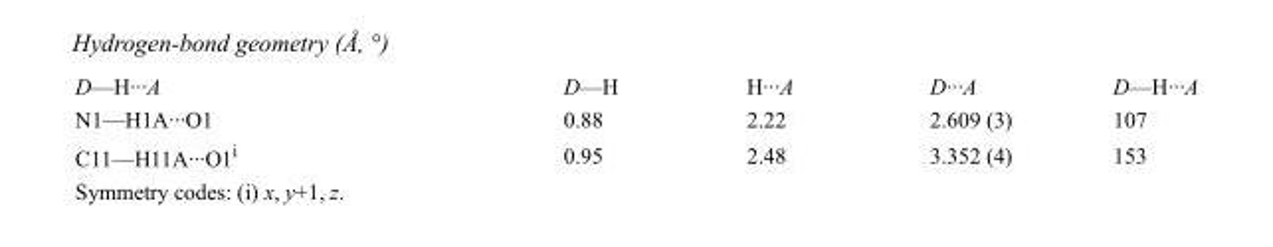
<table><tbody><tr><td>D—H···A</td><td>D—H</td><td>H···A</td><td>D···A</td><td>D—H···A</td></tr><tr><td>N1—H1A···O1</td><td>0.88</td><td>2.22</td><td>2.609 (3)</td><td>107</td></tr><tr><td>C11—H11A···O1<sup>i</sup></td><td>0.95</td><td>2.48</td><td>3.352 (4)</td><td>153</td></tr></tbody></table>